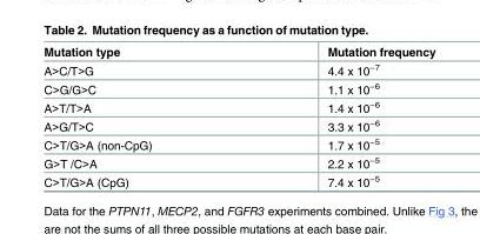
<table><thead><tr><td>Mutation type</td><td>Mutation frequency</td></tr></thead><tbody><tr><td>A&gt;C/T&gt;G</td><td>4.4 x 10<sup>−7</sup></td></tr><tr><td>C&gt;G/G&gt;C</td><td>1.1 x 10<sup>−6</sup></td></tr><tr><td>A&gt;T/T&gt;A</td><td>1.4 x 10<sup>−6</sup></td></tr><tr><td>A&gt;G/T&gt;C</td><td>3.3 x 10<sup>−6</sup></td></tr><tr><td>C&gt;T/G&gt;A (non-CpG)</td><td>1.7 x 10<sup>−5</sup></td></tr><tr><td>G&gt;T /C&gt;A</td><td>2.2 x 10<sup>−5</sup></td></tr><tr><td>C&gt;T/G&gt;A (CpG)</td><td>7.4 x 10<sup>−5</sup></td></tr></tbody></table>